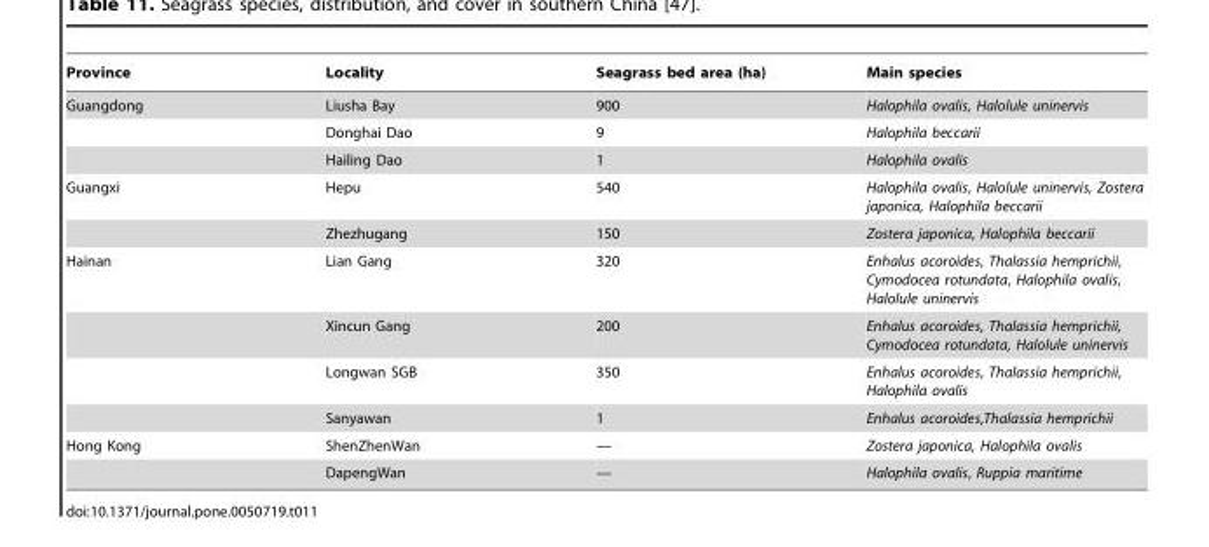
<table><thead><tr><td>Province</td><td>Locality</td><td>Seagrass bed area (ha)</td><td>Main species</td></tr></thead><tbody><tr><td rowspan="3">Guangdong</td><td>Liusha Bay</td><td>900</td><td>Halophila ovalis, Halolule uninervis</td></tr><tr><td>Donghai Dao</td><td>9</td><td>Halophila beccarii</td></tr><tr><td>Hailing Dao</td><td>1</td><td>Halophila ovalis</td></tr><tr><td rowspan="2">Guangxi</td><td>Hepu</td><td>540</td><td>Halophila ovalis, Halolule uninervis, Zostera japonica, Halophila beccarii</td></tr><tr><td>Zhezhugang</td><td>150</td><td>Zostera japonica, Halophila beccarii</td></tr><tr><td rowspan="4">Hainan</td><td>Lian Gang</td><td>320</td><td>Enhalus acoroides, Thalassia hemprichii, Cymodocea rotundata, Halophila ovalis, Halolule uninervis</td></tr><tr><td>Xincun Gang</td><td>200</td><td>Enhalus acoroides, Thalassia hemprichii, Cymodocea rotundata, Halolule uninervis</td></tr><tr><td>Longwan SGB</td><td>350</td><td>Enhalus acoroides, Thalassia hemprichii, Halophila ovalis</td></tr><tr><td>Sanyawan</td><td>1</td><td>Enhalus acoroides,Thalassia hemprichii</td></tr><tr><td rowspan="2">Hong Kong</td><td>ShenZhenWan</td><td>—</td><td>Zostera japonica, Halophila ovalis</td></tr><tr><td>DapengWan</td><td>—</td><td>Halophila ovalis, Ruppia maritime</td></tr></tbody></table>